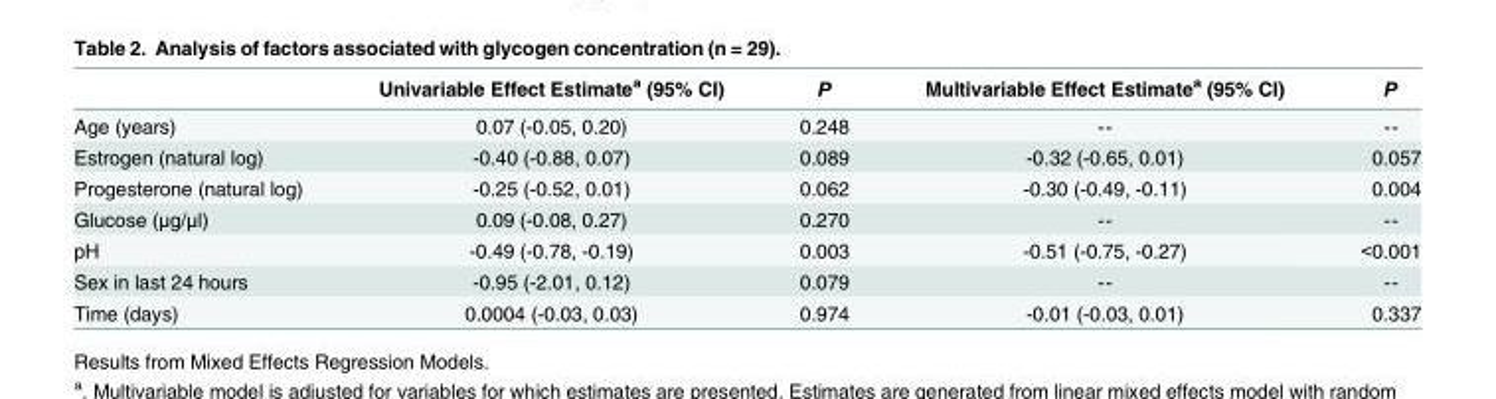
<table><thead><tr><td></td><td>Univariable Effect Estimate<sup>a</sup> (95% CI)</td><td>P</td><td>Multivariable Effect Estimate<sup>a</sup> (95% CI)</td><td>P</td></tr></thead><tbody><tr><td>Age (years)</td><td>0.07 (-0.05, 0.20)</td><td>0.248</td><td>--</td><td>--</td></tr><tr><td>Estrogen (natural log)</td><td>-0.40 (-0.88, 0.07)</td><td>0.089</td><td>-0.32 (-0.65, 0.01)</td><td>0.057</td></tr><tr><td>Progesterone (natural log)</td><td>-0.25 (-0.52, 0.01)</td><td>0.062</td><td>-0.30 (-0.49, -0.11)</td><td>0.004</td></tr><tr><td>Glucose (μg/μl)</td><td>0.09 (-0.08, 0.27)</td><td>0.270</td><td>--</td><td>--</td></tr><tr><td>pH</td><td>-0.49 (-0.78, -0.19)</td><td>0.003</td><td>-0.51 (-0.75, -0.27)</td><td>&lt;0.001</td></tr><tr><td>Sex in last 24 hours</td><td>-0.95 (-2.01, 0.12)</td><td>0.079</td><td>--</td><td>--</td></tr><tr><td>Time (days)</td><td>0.0004 (-0.03, 0.03)</td><td>0.974</td><td>-0.01 (-0.03, 0.01)</td><td>0.337</td></tr></tbody></table>